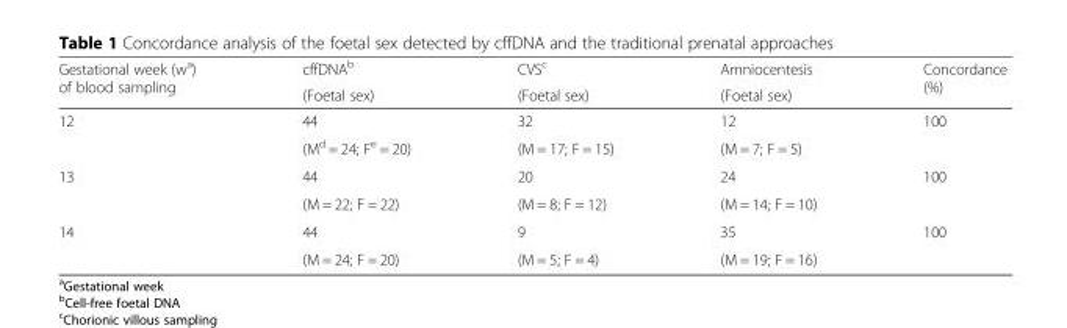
<table><thead><tr><td rowspan="2">Gestational week (w<sup>a</sup>) of blood sampling</td><td rowspan="2">cffDNA<sup>b</sup> (Foetal sex)</td><td rowspan="2">CVS<sup>c</sup> (Foetal sex)</td><td rowspan="2">Amniocentesis (Foetal sex)</td><td rowspan="2">Concordance (%)</td></tr><tr></tr></thead><tbody><tr><td rowspan="2">12</td><td>44</td><td>32</td><td>12</td><td rowspan="2">100</td></tr><tr><td>(M<sup>d</sup> = 24; F<sup>e</sup> = 20)</td><td>(M = 17; F = 15)</td><td>(M = 7; F = 5)</td></tr><tr><td rowspan="2">13</td><td>44</td><td>20</td><td>24</td><td rowspan="2">100</td></tr><tr><td>(M = 22; F = 22)</td><td>(M = 8; F = 12)</td><td>(M = 14; F = 10)</td></tr><tr><td rowspan="2">14</td><td>44</td><td>9</td><td>35</td><td rowspan="2">100</td></tr><tr><td>(M = 24; F = 20)</td><td>(M = 5; F = 4)</td><td>(M = 19; F = 16)</td></tr></tbody></table>